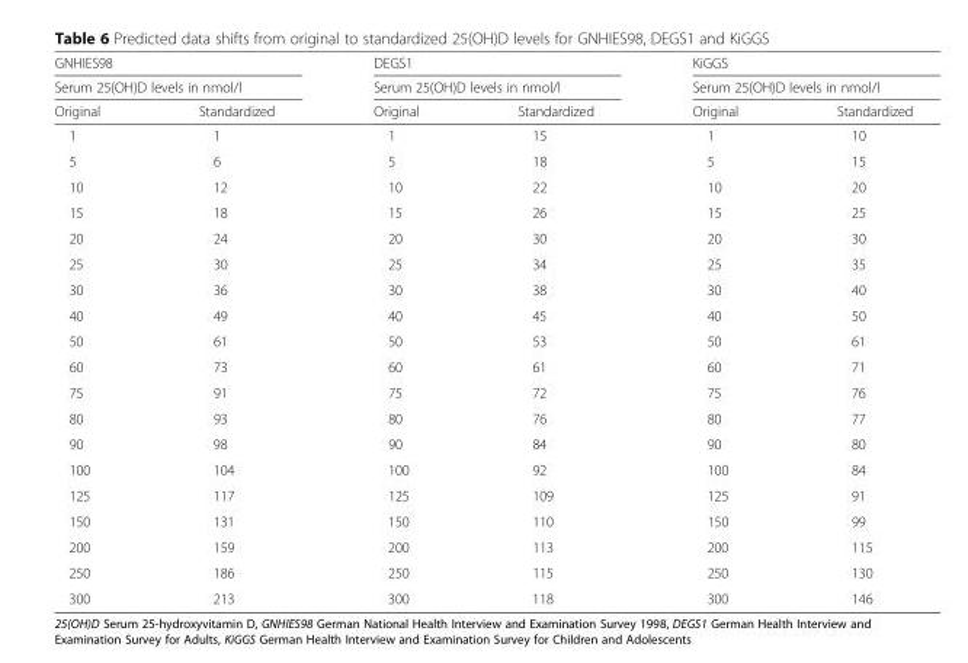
<table><thead><tr><td rowspan="2" colspan="2">GNHIES98 Serum 25(OH)D levels in nmol/l</td><td rowspan="2" colspan="2">DEGS1 Serum 25(OH)D levels in nmol/l</td><td rowspan="2" colspan="2">KiGGS Serum 25(OH)D levels in nmol/l</td></tr><tr></tr><tr><td>Original</td><td>Standardized</td><td>Original</td><td>Standardized</td><td>Original</td><td>Standardized</td></tr></thead><tbody><tr><td>1</td><td>1</td><td>1</td><td>15</td><td>1</td><td>10</td></tr><tr><td>5</td><td>6</td><td>5</td><td>18</td><td>5</td><td>15</td></tr><tr><td>10</td><td>12</td><td>10</td><td>22</td><td>10</td><td>20</td></tr><tr><td>15</td><td>18</td><td>15</td><td>26</td><td>15</td><td>25</td></tr><tr><td>20</td><td>24</td><td>20</td><td>30</td><td>20</td><td>30</td></tr><tr><td>25</td><td>30</td><td>25</td><td>34</td><td>25</td><td>35</td></tr><tr><td>30</td><td>36</td><td>30</td><td>38</td><td>30</td><td>40</td></tr><tr><td>40</td><td>49</td><td>40</td><td>45</td><td>40</td><td>50</td></tr><tr><td>50</td><td>61</td><td>50</td><td>53</td><td>50</td><td>61</td></tr><tr><td>60</td><td>73</td><td>60</td><td>61</td><td>60</td><td>71</td></tr><tr><td>75</td><td>91</td><td>75</td><td>72</td><td>75</td><td>76</td></tr><tr><td>80</td><td>93</td><td>80</td><td>76</td><td>80</td><td>77</td></tr><tr><td>90</td><td>98</td><td>90</td><td>84</td><td>90</td><td>80</td></tr><tr><td>100</td><td>104</td><td>100</td><td>92</td><td>100</td><td>84</td></tr><tr><td>125</td><td>117</td><td>125</td><td>109</td><td>125</td><td>91</td></tr><tr><td>150</td><td>131</td><td>150</td><td>110</td><td>150</td><td>99</td></tr><tr><td>200</td><td>159</td><td>200</td><td>113</td><td>200</td><td>115</td></tr><tr><td>250</td><td>186</td><td>250</td><td>115</td><td>250</td><td>130</td></tr><tr><td>300</td><td>213</td><td>300</td><td>118</td><td>300</td><td>146</td></tr></tbody></table>